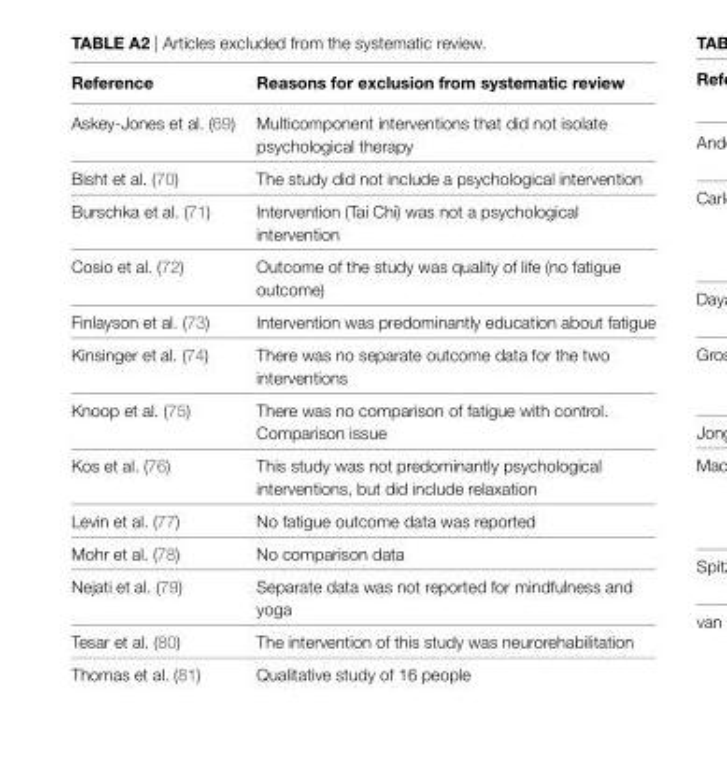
<table><thead><tr><td>Reference</td><td>Reasons for exclusion from systematic review</td></tr></thead><tbody><tr><td>Askey-Jones et al. (69)</td><td>Multicomponent interventions that did not isolate psychological therapy</td></tr><tr><td>Bisht et al. (70)</td><td>The study did not include a psychological intervention</td></tr><tr><td>Burschka et al. (71)</td><td>Intervention (Tai Chi) was not a psychological intervention</td></tr><tr><td>Cosio et al. (72)</td><td>Outcome of the study was quality of life (no fatigue outcome)</td></tr><tr><td>Finlayson et al. (73)</td><td>Intervention was predominantly education about fatigue</td></tr><tr><td>Kinsinger et al. (74)</td><td>There was no separate outcome data for the two interventions</td></tr><tr><td>Knoop et al. (75)</td><td>There was no comparison of fatigue with control. Comparison issue</td></tr><tr><td>Kos et al. (76)</td><td>This study was not predominantly psychological interventions, but did include relaxation</td></tr><tr><td>Levin et al. (77)</td><td>No fatigue outcome data was reported</td></tr><tr><td>Mohr et al. (78)</td><td>No comparison data</td></tr><tr><td>Nejati et al. (79)</td><td>Separate data was not reported for mindfulness and yoga</td></tr><tr><td>Tesar et al. (80)</td><td>The intervention of this study was neurorehabilitation</td></tr><tr><td>Thomas et al. (81)</td><td>Qualitative study of 16 people</td></tr></tbody></table>